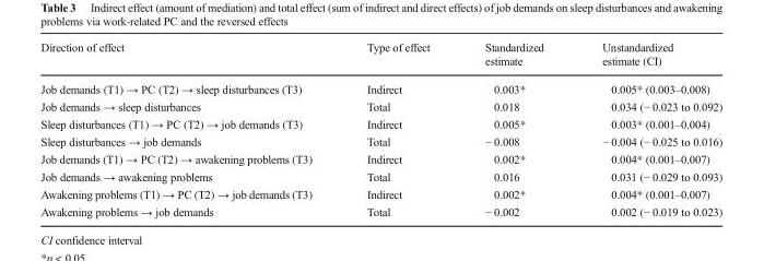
<table><thead><tr><td>Direction of effect</td><td>Type of effect</td><td>Standardized estimate</td><td>Unstandardized estimate (CI)</td></tr></thead><tbody><tr><td>Job demands (T1) → PC (T2) → sleep disturbances (T3)</td><td>Indirect</td><td>0.003*</td><td>0.005* (0.003–0.008)</td></tr><tr><td>Job demands → sleep disturbances</td><td>Total</td><td>0.018</td><td>0.034 (− 0.023 to 0.092)</td></tr><tr><td>Sleep disturbances (T1) → PC (T2) → job demands (T3)</td><td>Indirect</td><td>0.005*</td><td>0.003* (0.001–0.004)</td></tr><tr><td>Sleep disturbances → job demands</td><td>Total</td><td>− 0.008</td><td>− 0.004 (− 0.025 to 0.016)</td></tr><tr><td>Job demands (T1) → PC (T2) → awakening problems (T3)</td><td>Indirect</td><td>0.002*</td><td>0.004* (0.001–0.007)</td></tr><tr><td>Job demands → awakening problems</td><td>Total</td><td>0.016</td><td>0.031 (− 0.029 to 0.093)</td></tr><tr><td>Awakening problems (T1) → PC (T2) → job demands (T3)</td><td>Indirect</td><td>0.002*</td><td>0.004* (0.001–0.007)</td></tr><tr><td>Awakening problems → job demands</td><td>Total</td><td>− 0.002</td><td>0.002 (− 0.019 to 0.023)</td></tr></tbody></table>